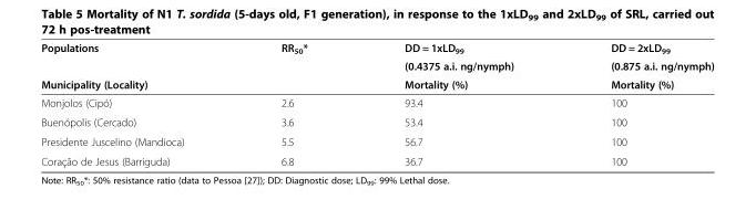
<table><thead><tr><td rowspan="3">Populations Municipality (Locality)</td><td rowspan="3">RR<sub>50</sub>*</td><td rowspan="3">DD = 1xLD<sub>99</sub> (0.4375 a.i. ng/nymph) Mortality (%)</td><td rowspan="3">DD = 2xLD<sub>99</sub> (0.875 a.i. ng/nymph) Mortality (%)</td></tr><tr></tr><tr></tr></thead><tbody><tr><td>Monjolos (Cipó)</td><td>2.6</td><td>93.4</td><td>100</td></tr><tr><td>Buenópolis (Cercado)</td><td>3.6</td><td>53.4</td><td>100</td></tr><tr><td>Presidente Juscelino (Mandioca)</td><td>5.5</td><td>56.7</td><td>100</td></tr><tr><td>Coração de Jesus (Barriguda)</td><td>6.8</td><td>36.7</td><td>100</td></tr></tbody></table>